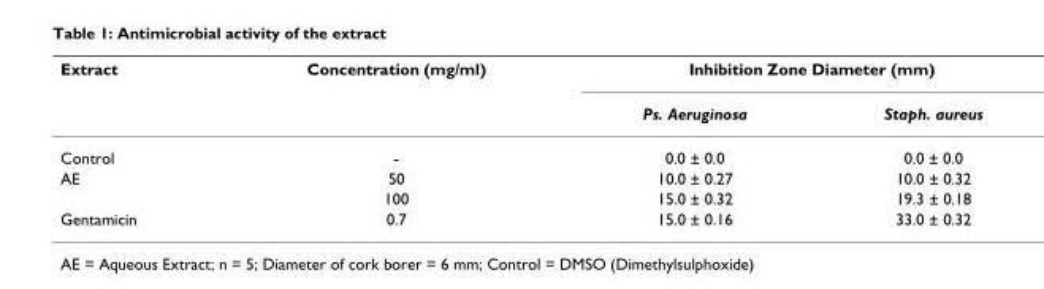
<table><thead><tr><td rowspan="2">Extract</td><td rowspan="2">Concentration (mg/ml)</td><td colspan="2">Inhibition Zone Diameter (mm)</td></tr><tr><td>Ps. Aeruginosa</td><td>Staph. aureus</td></tr></thead><tbody><tr><td>Control</td><td>-</td><td>0.0 ± 0.0</td><td>0.0 ± 0.0</td></tr><tr><td rowspan="2">AE</td><td>50</td><td>10.0 ± 0.27</td><td>10.0 ± 0.32</td></tr><tr><td>100</td><td>15.0 ± 0.32</td><td>19.3 ± 0.18</td></tr><tr><td>Gentamicin</td><td>0.7</td><td>15.0 ± 0.16</td><td>33.0 ± 0.32</td></tr></tbody></table>